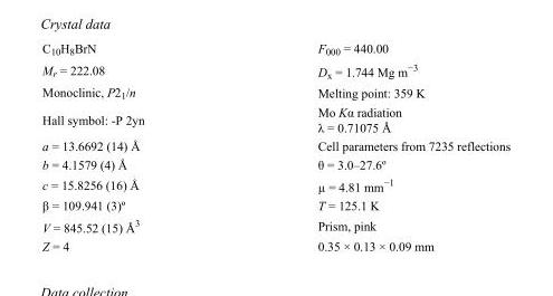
<table><tbody><tr><td>C<sub>10</sub>H<sub>8</sub>BrN</td><td>F<sub>000</sub> = 440.00</td></tr><tr><td>M<sub>r</sub> = 222.08</td><td>D<sub>x</sub> = 1.744 Mg m<sup>−3</sup></td></tr><tr><td>Monoclinic, P2<sub>1</sub>/n</td><td>Melting point: 359 K</td></tr><tr><td>Hall symbol: -P 2yn</td><td>Mo Kα radiation λ = 0.71075 Å</td></tr><tr><td>a = 13.6692 (14) Å</td><td>Cell parameters from 7235 reflections</td></tr><tr><td>b = 4.1579 (4) Å</td><td>θ = 3.0–27.6º</td></tr><tr><td>c = 15.8256 (16) Å</td><td>µ = 4.81 mm<sup>−1</sup></td></tr><tr><td>β = 109.941 (3)º</td><td>T = 125.1 K</td></tr><tr><td>V = 845.52 (15) Å<sup>3</sup></td><td>Prism, pink</td></tr><tr><td>Z = 4</td><td>0.35 × 0.13 × 0.09 mm</td></tr></tbody></table>